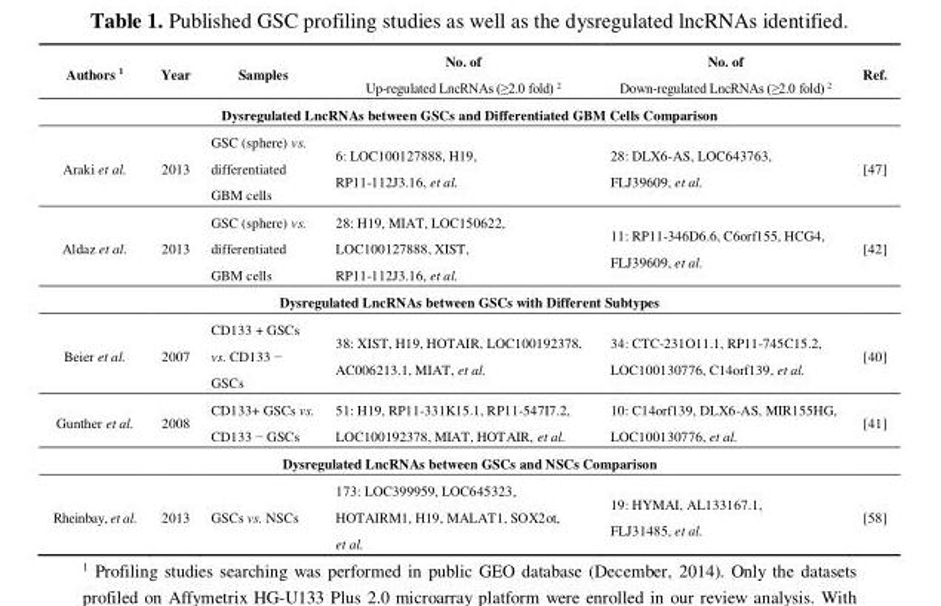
<table><thead><tr><td rowspan="2">Authors <sup>1</sup></td><td rowspan="2">Year</td><td rowspan="2">Samples</td><td rowspan="2">No. of Up-regulated LncRNAs (≥2.0 fold) <sup>2</sup></td><td rowspan="2">No. of Down-regulated LncRNAs (≥2.0 fold) <sup>2</sup></td><td rowspan="2">Ref.</td></tr><tr></tr></thead><tbody><tr><td colspan="6">Dysregulated LncRNAs between GSCs and Differentiated GBM Cells Comparison</td></tr><tr><td>Araki et al.</td><td>2013</td><td>GSC (sphere) vs. differentiated GBM cells</td><td>6: LOC100127888, H19, RP11-112J3.16, et al.</td><td>28: DLX6-AS, LOC643763, FLJ39609, et al.</td><td>[47]</td></tr><tr><td>Aldaz et al.</td><td>2013</td><td>GSC (sphere) vs. differentiated GBM cells</td><td>28: H19, MIAT, LOC150622, LOC100127888, XIST, RP11-112J3.16, et al.</td><td>11: RP11-346D6.6, C6orf155, HCG4, FLJ39609, et al.</td><td>[42]</td></tr><tr><td colspan="6">Dysregulated LncRNAs between GSCs with Different Subtypes</td></tr><tr><td>Beier et al.</td><td>2007</td><td>CD133 + GSCs vs. CD133 − GSCs</td><td>38: XIST, H19, HOTAIR, LOC100192378, AC006213.1, MIAT, et al.</td><td>34: CTC-231O11.1, RP11-745C15.2, LOC100130776, C14orf139, et al.</td><td>[40]</td></tr><tr><td>Gunther et al.</td><td>2008</td><td>CD133+ GSCs vs. CD133 − GSCs</td><td>51: H19, RP11-331K15.1, RP11-547I7.2, LOC100192378, MIAT, HOTAIR, et al.</td><td>10: C14orf139, DLX6-AS, MIR155HG, LOC100130776, et al.</td><td>[41]</td></tr><tr><td colspan="6">Dysregulated LncRNAs between GSCs and NSCs Comparison</td></tr><tr><td>Rheinbay, et al.</td><td>2013</td><td>GSCs vs. NSCs</td><td>173: LOC399959, LOC645323, HOTAIRM1, H19, MALAT1, SOX2ot, et al.</td><td>19: HYMAI, AL133167.1, FLJ31485, et al.</td><td>[58]</td></tr></tbody></table>